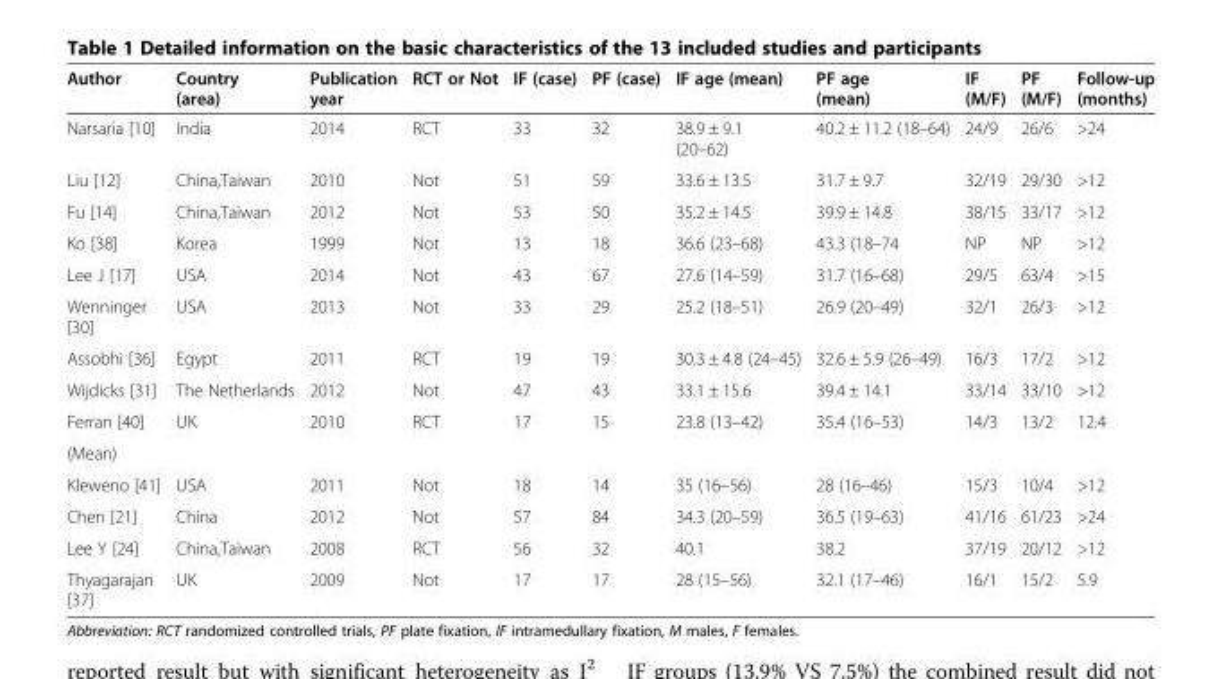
<table><thead><tr><td>Author</td><td>Country (area)</td><td>Publication year</td><td>RCT or Not</td><td>IF (case)</td><td>PF (case)</td><td>IF age (mean)</td><td>PF age (mean)</td><td>IF (M/F)</td><td>PF (M/F)</td><td>Follow-up (months)</td></tr></thead><tbody><tr><td>Narsaria [10]</td><td>India</td><td>2014</td><td>RCT</td><td>33</td><td>32</td><td>38.9 ± 9.1 (20–62)</td><td>40.2 ± 11.2 (18–64)</td><td>24/9</td><td>26/6</td><td>&gt;24</td></tr><tr><td>Liu [12]</td><td>China,Taiwan</td><td>2010</td><td>Not</td><td>51</td><td>59</td><td>33.6 ± 13.5</td><td>31.7 ± 9.7</td><td>32/19</td><td>29/30</td><td>&gt;12</td></tr><tr><td>Fu [14]</td><td>China,Taiwan</td><td>2012</td><td>Not</td><td>53</td><td>50</td><td>35.2 ± 14.5</td><td>39.9 ± 14.8</td><td>38/15</td><td>33/17</td><td>&gt;12</td></tr><tr><td>Ko [38]</td><td>Korea</td><td>1999</td><td>Not</td><td>13</td><td>18</td><td>36.6 (23–68)</td><td>43.3 (18–74</td><td>NP</td><td>NP</td><td>&gt;12</td></tr><tr><td>Lee J [17]</td><td>USA</td><td>2014</td><td>Not</td><td>43</td><td>67</td><td>27.6 (14–59)</td><td>31.7 (16–68)</td><td>29/5</td><td>63/4</td><td>&gt;15</td></tr><tr><td>Wenninger [30]</td><td>USA</td><td>2013</td><td>Not</td><td>33</td><td>29</td><td>25.2 (18–51)</td><td>26.9 (20–49)</td><td>32/1</td><td>26/3</td><td>&gt;12</td></tr><tr><td>Assobhi [36]</td><td>Egypt</td><td>2011</td><td>RCT</td><td>19</td><td>19</td><td>30.3 ± 4.8 (24–45)</td><td>32.6 ± 5.9 (26–49)</td><td>16/3</td><td>17/2</td><td>&gt;12</td></tr><tr><td>Wijdicks [31]</td><td>The Netherlands</td><td>2012</td><td>Not</td><td>47</td><td>43</td><td>33.1 ± 15.6</td><td>39.4 ± 14.1</td><td>33/14</td><td>33/10</td><td>&gt;12</td></tr><tr><td>Ferran [40]</td><td>UK</td><td>2010</td><td>RCT</td><td>17</td><td>15</td><td>23.8 (13–42)</td><td>35.4 (16–53)</td><td>14/3</td><td>13/2</td><td>12.4</td></tr><tr><td colspan="11">(Mean)</td></tr><tr><td>Kleweno [41]</td><td>USA</td><td>2011</td><td>Not</td><td>18</td><td>14</td><td>35 (16–56)</td><td>28 (16–46)</td><td>15/3</td><td>10/4</td><td>&gt;12</td></tr><tr><td>Chen [21]</td><td>China</td><td>2012</td><td>Not</td><td>57</td><td>84</td><td>34.3 (20–59)</td><td>36.5 (19–63)</td><td>41/16</td><td>61/23</td><td>&gt;24</td></tr><tr><td>Lee Y [24]</td><td>China,Taiwan</td><td>2008</td><td>RCT</td><td>56</td><td>32</td><td>40.1</td><td>38.2</td><td>37/19</td><td>20/12</td><td>&gt;12</td></tr><tr><td>Thyagarajan [37]</td><td>UK</td><td>2009</td><td>Not</td><td>17</td><td>17</td><td>28 (15–56)</td><td>32.1 (17–46)</td><td>16/1</td><td>15/2</td><td>5.9</td></tr></tbody></table>